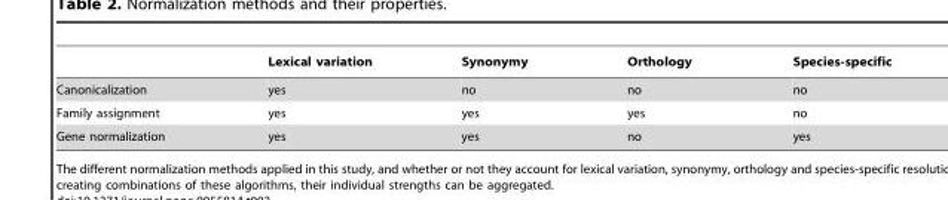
<table><thead><tr><td></td><td>Lexical variation</td><td>Synonymy</td><td>Orthology</td><td>Species-specific</td></tr></thead><tbody><tr><td>Canonicalization</td><td>yes</td><td>no</td><td>no</td><td>no</td></tr><tr><td>Family assignment</td><td>yes</td><td>yes</td><td>yes</td><td>no</td></tr><tr><td>Gene normalization</td><td>yes</td><td>yes</td><td>no</td><td>yes</td></tr></tbody></table>